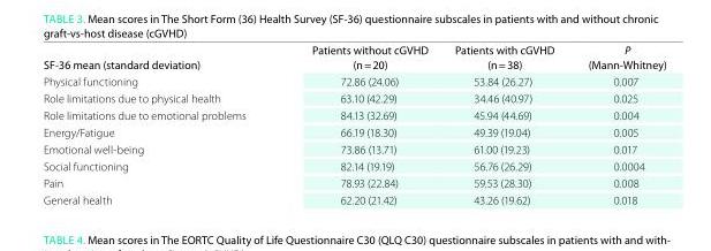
<table><thead><tr><td>SF-36 mean (standard deviation)</td><td>Patients without cGVhD (n = 20)</td><td>Patients with cGVhD (n = 38)</td><td>P (mann-Whitney)</td></tr></thead><tbody><tr><td>Physical functioning</td><td>72.86 (24.06)</td><td>53.84 (26.27)</td><td>0.007</td></tr><tr><td>Role limitations due to physical health</td><td>63.10 (42.29)</td><td>34.46 (40.97)</td><td>0.025</td></tr><tr><td>Role limitations due to emotional problems</td><td>84.13 (32.69)</td><td>45.94 (44.69)</td><td>0.004</td></tr><tr><td>Energy/Fatigue</td><td>66.19 (18.30)</td><td>49.39 (19.04)</td><td>0.005</td></tr><tr><td>Emotional well-being</td><td>73.86 (13.71)</td><td>61.00 (19.23)</td><td>0.017</td></tr><tr><td>Social functioning</td><td>82.14 (19.19)</td><td>56.76 (26.29)</td><td>0.0004</td></tr><tr><td>Pain</td><td>78.93 (22.84)</td><td>59.53 (28.30)</td><td>0.008</td></tr><tr><td>General health</td><td>62.20 (21.42)</td><td>43.26 (19.62)</td><td>0.018</td></tr></tbody></table>